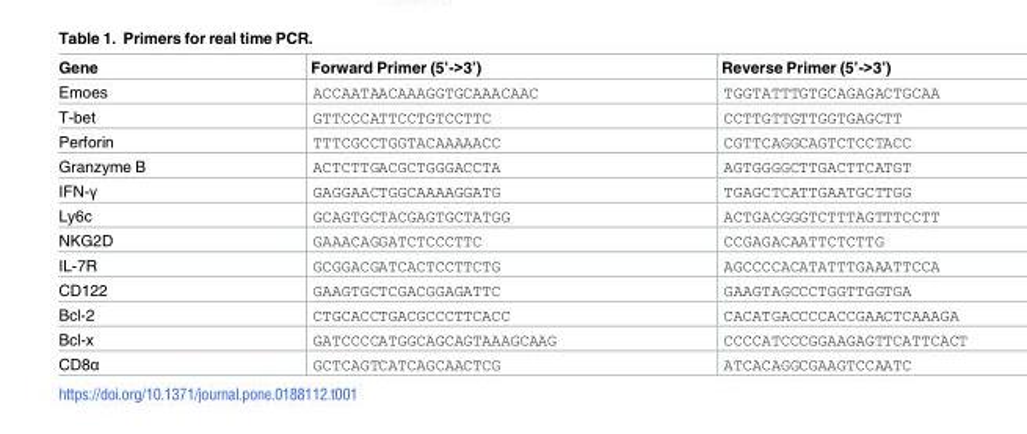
<table><thead><tr><td>Gene</td><td>Forward Primer (5’-&gt;3’)</td><td>Reverse Primer (5’-&gt;3’)</td></tr></thead><tbody><tr><td>Emoes</td><td>ACCAATAACAAAGGTGCAAACAAC</td><td>TGGTATTTGTGCAGAGACTGCAA</td></tr><tr><td>T-bet</td><td>GTTCCCATTCCTGTCCTTC</td><td>CCTTGTTGTTGGTGAGCTT</td></tr><tr><td>Perforin</td><td>TTTCGCCTGGTACAAAAACC</td><td>CGTTCAGGCAGTCTCCTACC</td></tr><tr><td>Granzyme B</td><td>ACTCTTGACGCTGGGACCTA</td><td>AGTGGGGCTTGACTTCATGT</td></tr><tr><td>IFN-γ</td><td>GAGGAACTGGCAAAAGGATG</td><td>TGAGCTCATTGAATGCTTGG</td></tr><tr><td>Ly6c</td><td>GCAGTGCTACGAGTGCTATGG</td><td>ACTGACGGGTCTTTAGTTTCCTT</td></tr><tr><td>NKG2D</td><td>GAAACAGGATCTCCCTTC</td><td>CCGAGACAATTCTCTTG</td></tr><tr><td>IL-7R</td><td>GCGGACGATCACTCCTTCTG</td><td>AGCCCCACATATTTGAAATTCCA</td></tr><tr><td>CD122</td><td>GAAGTGCTCGACGGAGATTC</td><td>GAAGTAGCCCTGGTTGGTGA</td></tr><tr><td>Bcl-2</td><td>CTGCACCTGACGCCCTTCACC</td><td>CACATGACCCCACCGAACTCAAAGA</td></tr><tr><td>Bcl-x</td><td>GATCCCCATGGCAGCAGTAAAGCAAG</td><td>CCCCATCCCGGAAGAGTTCATTCACT</td></tr><tr><td>CD8α</td><td>GCTCAGTCATCAGCAACTCG</td><td>ATCACAGGCGAAGTCCAATC</td></tr></tbody></table>